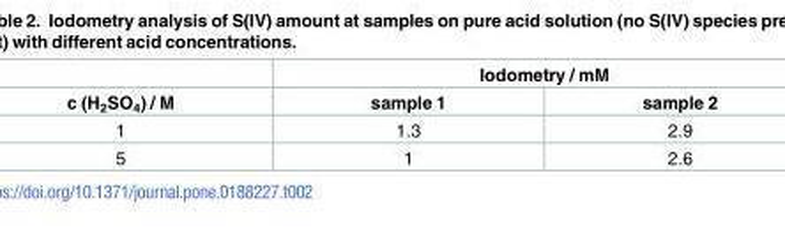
<table><thead><tr><td rowspan="2">c (H<sub>2</sub>SO<sub>4</sub>) / M</td><td colspan="2">Iodometry / mM</td></tr><tr><td>sample 1</td><td>sample 2</td></tr></thead><tbody><tr><td>1</td><td>1.3</td><td>2.9</td></tr><tr><td>5</td><td>1</td><td>2.6</td></tr></tbody></table>